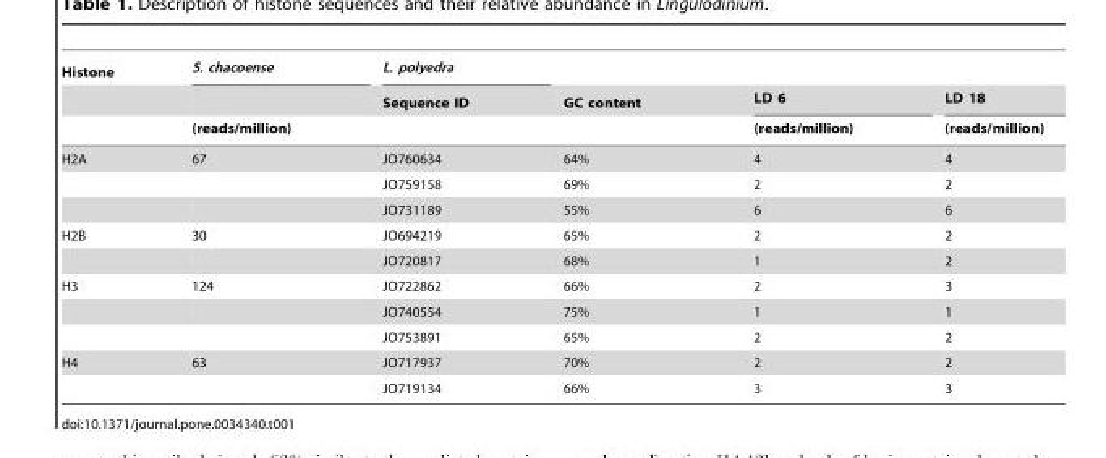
<table><thead><tr><td rowspan="3">Histone</td><td rowspan="3">S. chacoense (reads/million)</td><td rowspan="3">L. polyedra Sequence ID</td><td rowspan="3">GC content</td><td rowspan="3">LD 6 (reads/million)</td><td rowspan="3">LD 18 (reads/million)</td></tr><tr></tr><tr></tr></thead><tbody><tr><td rowspan="3">H2A</td><td>67</td><td>JO760634</td><td>64%</td><td>4</td><td>4</td></tr><tr><td></td><td>JO759158</td><td>69%</td><td>2</td><td>2</td></tr><tr><td></td><td>JO731189</td><td>55%</td><td>6</td><td>6</td></tr><tr><td rowspan="2">H2B</td><td>30</td><td>JO694219</td><td>65%</td><td>2</td><td>2</td></tr><tr><td></td><td>JO720817</td><td>68%</td><td>1</td><td>2</td></tr><tr><td rowspan="3">H3</td><td>124</td><td>JO722862</td><td>66%</td><td>2</td><td>3</td></tr><tr><td></td><td>JO740554</td><td>75%</td><td>1</td><td>1</td></tr><tr><td></td><td>JO753891</td><td>65%</td><td>2</td><td>2</td></tr><tr><td rowspan="2">H4</td><td>63</td><td>JO717937</td><td>70%</td><td>2</td><td>2</td></tr><tr><td></td><td>JO719134</td><td>66%</td><td>3</td><td>3</td></tr></tbody></table>